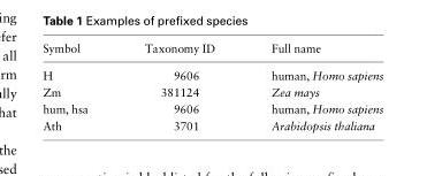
<table><thead><tr><td>Symbol</td><td>Taxonomy ID</td><td>Full name</td></tr></thead><tbody><tr><td>H</td><td>9606</td><td>human, Homo sapiens</td></tr><tr><td>Zm</td><td>381124</td><td>Zea mays</td></tr><tr><td>hum, hsa</td><td>9606</td><td>human, Homo sapiens</td></tr><tr><td>Ath</td><td>3701</td><td>Arabidopsis thaliana</td></tr></tbody></table>